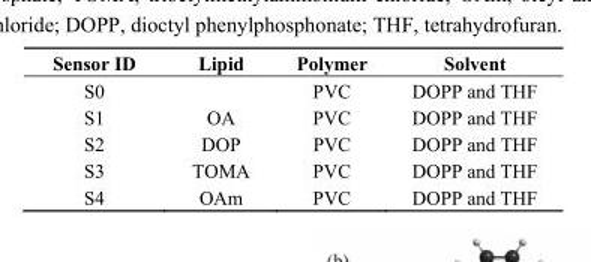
<table><thead><tr><td>Sensor ID</td><td>Lipid</td><td>Polymer</td><td>Solvent</td></tr></thead><tbody><tr><td>S0</td><td></td><td>PVC</td><td>DOPP and THF</td></tr><tr><td>S1</td><td>OA</td><td>PVC</td><td>DOPP and THF</td></tr><tr><td>S2</td><td>DOP</td><td>PVC</td><td>DOPP and THF</td></tr><tr><td>S3</td><td>TOMA</td><td>PVC</td><td>DOPP and THF</td></tr><tr><td>S4</td><td>OAm</td><td>PVC</td><td>DOPP and THF</td></tr></tbody></table>